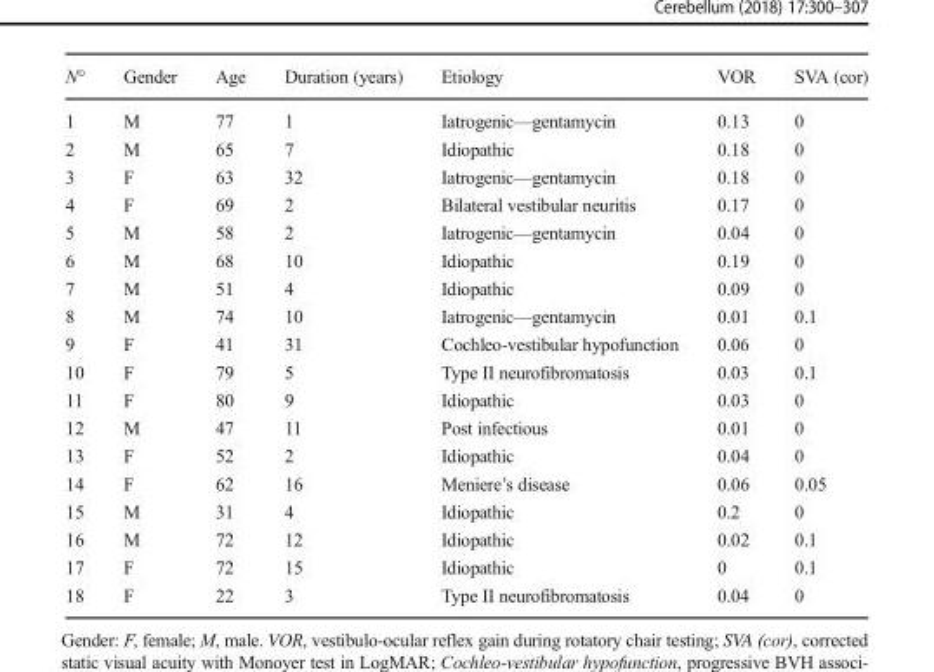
<table><thead><tr><td>N°</td><td>Gender</td><td>Age</td><td>Duration (years)</td><td>Etiology</td><td>VOR</td><td>SVA (cor)</td></tr></thead><tbody><tr><td>1</td><td>M</td><td>77</td><td>1</td><td>Iatrogenic—gentamycin</td><td>0.13</td><td>0</td></tr><tr><td>2</td><td>M</td><td>65</td><td>7</td><td>Idiopathic</td><td>0.18</td><td>0</td></tr><tr><td>3</td><td>F</td><td>63</td><td>32</td><td>Iatrogenic—gentamycin</td><td>0.18</td><td>0</td></tr><tr><td>4</td><td>F</td><td>69</td><td>2</td><td>Bilateral vestibular neuritis</td><td>0.17</td><td>0</td></tr><tr><td>5</td><td>M</td><td>58</td><td>2</td><td>Iatrogenic—gentamycin</td><td>0.04</td><td>0</td></tr><tr><td>6</td><td>M</td><td>68</td><td>10</td><td>Idiopathic</td><td>0.19</td><td>0</td></tr><tr><td>7</td><td>M</td><td>51</td><td>4</td><td>Idiopathic</td><td>0.09</td><td>0</td></tr><tr><td>8</td><td>M</td><td>74</td><td>10</td><td>Iatrogenic—gentamycin</td><td>0.01</td><td>0.1</td></tr><tr><td>9</td><td>F</td><td>41</td><td>31</td><td>Cochleo-vestibular hypofunction</td><td>0.06</td><td>0</td></tr><tr><td>10</td><td>F</td><td>79</td><td>5</td><td>Type II neurofibromatosis</td><td>0.03</td><td>0.1</td></tr><tr><td>11</td><td>F</td><td>80</td><td>9</td><td>Idiopathic</td><td>0.03</td><td>0</td></tr><tr><td>12</td><td>M</td><td>47</td><td>11</td><td>Post infectious</td><td>0.01</td><td>0</td></tr><tr><td>13</td><td>F</td><td>52</td><td>2</td><td>Idiopathic</td><td>0.04</td><td>0</td></tr><tr><td>14</td><td>F</td><td>62</td><td>16</td><td>Meniere’s disease</td><td>0.06</td><td>0.05</td></tr><tr><td>15</td><td>M</td><td>31</td><td>4</td><td>Idiopathic</td><td>0.2</td><td>0</td></tr><tr><td>16</td><td>M</td><td>72</td><td>12</td><td>Idiopathic</td><td>0.02</td><td>0.1</td></tr><tr><td>17</td><td>F</td><td>72</td><td>15</td><td>Idiopathic</td><td>0</td><td>0.1</td></tr><tr><td>18</td><td>F</td><td>22</td><td>3</td><td>Type II neurofibromatosis</td><td>0.04</td><td>0</td></tr></tbody></table>